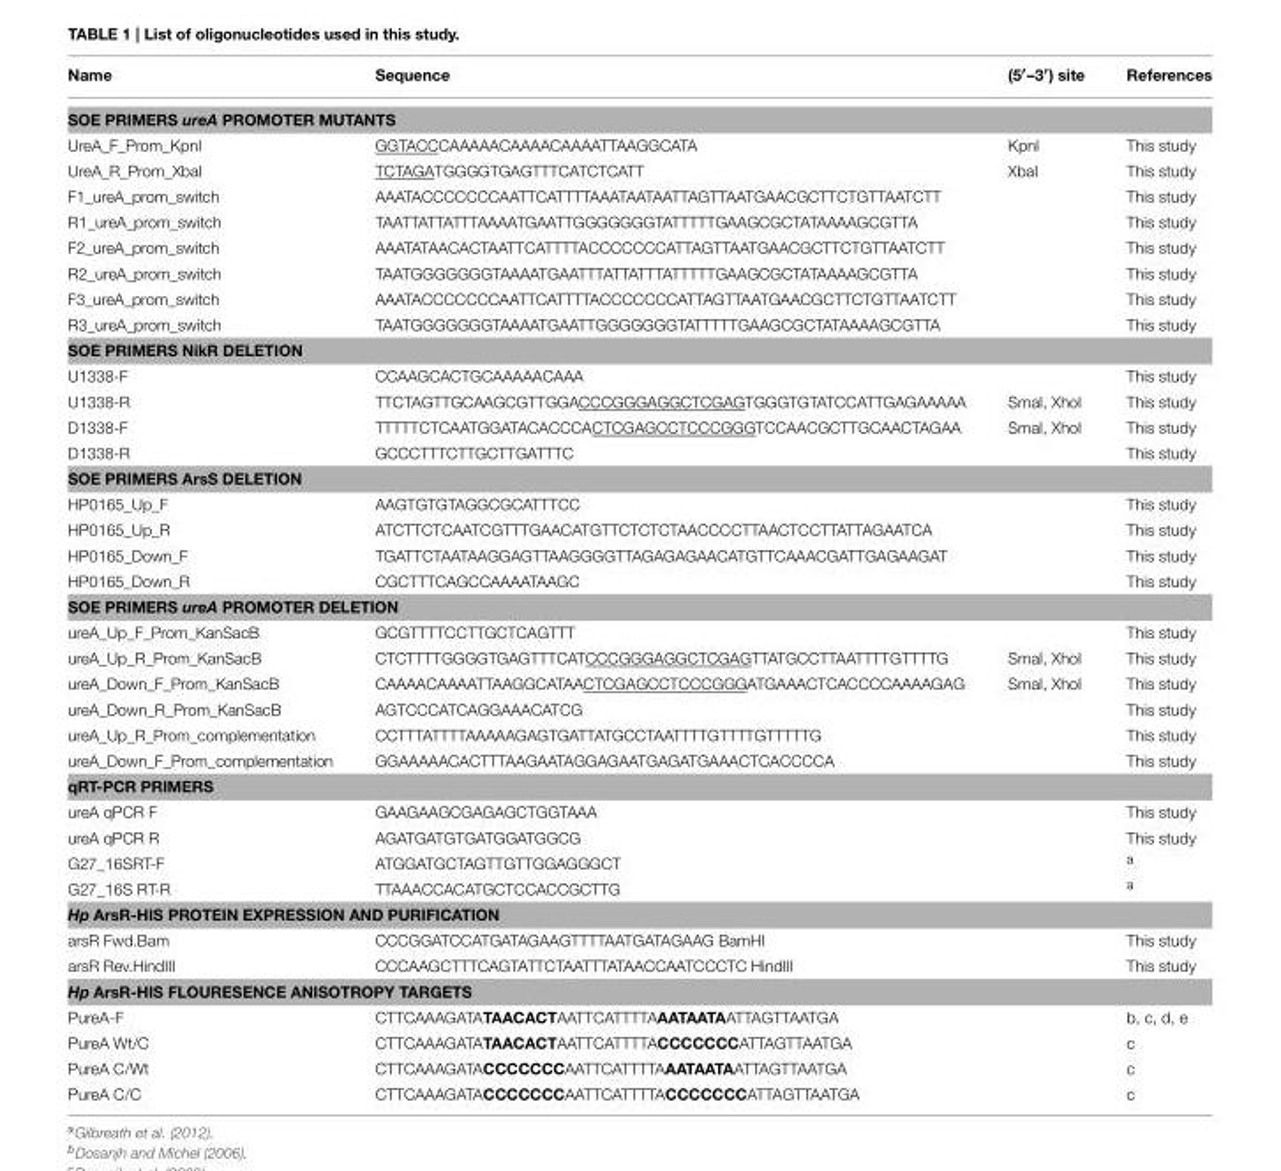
<table><thead><tr><td>Name</td><td>Sequence</td><td>(5′–3′) site</td><td>References</td></tr></thead><tbody><tr><td colspan="4">SOE PRIMERS ureA PROMOTER MUTANTS</td></tr><tr><td>UreA_F_Prom_KpnI</td><td>GGTACCCAAAAACAAAACAAAATTAAGGCATA</td><td>KpnI</td><td>This study</td></tr><tr><td>UreA_R_Prom_XbaI</td><td>TCTAGATGGGGTGAGTTTCATCTCATT</td><td>XbaI</td><td>This study</td></tr><tr><td>F1_ureA_prom_switch</td><td>AAATACCCCCCCAATTCATTTTAAATAATAATTAGTTAATGAACGCTTCTGTTAATCTT</td><td></td><td>This study</td></tr><tr><td>R1_ureA_prom_switch</td><td>TAATTATTATTTAAAATGAATTGGGGGGGTATTTTTGAAGCGCTATAAAAGCGTTA</td><td></td><td>This study</td></tr><tr><td>F2_ureA_prom_switch</td><td>AAATATAACACTAATTCATTTTACCCCCCCATTAGTTAATGAACGCTTCTGTTAATCTT</td><td></td><td>This study</td></tr><tr><td>R2_ureA_prom_switch</td><td>TAATGGGGGGGTAAAATGAATTTATTATTTATTTTTGAAGCGCTATAAAAGCGTTA</td><td></td><td>This study</td></tr><tr><td>F3_ureA_prom_switch</td><td>AAATACCCCCCCAATTCATTTTACCCCCCCATTAGTTAATGAACGCTTCTGTTAATCTT</td><td></td><td>This study</td></tr><tr><td>R3_ureA_prom_switch</td><td>TAATGGGGGGGTAAAATGAATTGGGGGGGTATTTTTGAAGCGCTATAAAAGCGTTA</td><td></td><td>This study</td></tr><tr><td colspan="4">SOE PRIMERS NikR DELETION</td></tr><tr><td>U1338-F</td><td>CCAAGCACTGCAAAAACAAA</td><td></td><td>This study</td></tr><tr><td>U1338-R</td><td>TTCTAGTTGCAAGCGTTGGACCCGGGAGGCTCGAGTGGGTGTATCCATTGAGAAAAA</td><td>SmaI, XhoI</td><td>This study</td></tr><tr><td>D1338-F</td><td>TTTTTCTCAATGGATACACCCACTCGAGCCTCCCGGGTCCAACGCTTGCAACTAGAA</td><td>SmaI, XhoI</td><td>This study</td></tr><tr><td>D1338-R</td><td>GCCCTTTCTTGCTTGATTTC</td><td></td><td>This study</td></tr><tr><td colspan="4">SOE PRIMERS ArsS DELETION</td></tr><tr><td>HP0165_Up_F</td><td>AAGTGTGTAGGCGCATTTCC</td><td></td><td>This study</td></tr><tr><td>HP0165_Up_R</td><td>ATCTTCTCAATCGTTTGAACATGTTCTCTCTAACCCCTTAACTCCTTATTAGAATCA</td><td></td><td>This study</td></tr><tr><td>HP0165_Down_F</td><td>TGATTCTAATAAGGAGTTAAGGGGTTAGAGAGAACATGTTCAAACGATTGAGAAGAT</td><td></td><td>This study</td></tr><tr><td>HP0165_Down_R</td><td>CGCTTTCAGCCAAAATAAGC</td><td></td><td>This study</td></tr><tr><td colspan="4">SOE PRIMERS ureA PROMOTER DELETION</td></tr><tr><td>ureA_Up_F_Prom_KanSacB</td><td>GCGTTTTCCTTGCTCAGTTT</td><td></td><td>This study</td></tr><tr><td>ureA_Up_R_Prom_KanSacB</td><td>CTCTTTTGGGGTGAGTTTCATCCCGGGAGGCTCGAGTTATGCCTTAATTTTGTTTTG</td><td>SmaI, XhoI</td><td>This study</td></tr><tr><td>ureA_Down_F_Prom_KanSacB</td><td>CAAAACAAAATTAAGGCATAACTCGAGCCTCCCGGGATGAAACTCACCCCAAAAGAG</td><td>SmaI, XhoI</td><td>This study</td></tr><tr><td>ureA_Down_R_Prom_KanSacB</td><td>AGTCCCATCAGGAAACATCG</td><td></td><td>This study</td></tr><tr><td>ureA_Up_R_Prom_complementation</td><td>CCTTTATTTTAAAAAGAGTGATTATGCCTAATTTTGTTTTGTTTTTG</td><td></td><td>This study</td></tr><tr><td>ureA_Down_F_Prom_complementation</td><td>GGAAAAACACTTTAAGAATAGGAGAATGAGATGAAACTCACCCCA</td><td></td><td>This study</td></tr><tr><td colspan="4">qRT-PCR PRIMERS</td></tr><tr><td>ureA qPCR F</td><td>GAAGAAGCGAGAGCTGGTAAA</td><td></td><td>This study</td></tr><tr><td>ureA qPCR R</td><td>AGATGATGTGATGGATGGCG</td><td></td><td>This study</td></tr><tr><td>G27_16SRT-F</td><td>ATGGATGCTAGTTGTTGGAGGGCT</td><td></td><td><sup>a</sup></td></tr><tr><td>G27_16S RT-R</td><td>TTAAACCACATGCTCCACCGCTTG</td><td></td><td><sup>a</sup></td></tr><tr><td colspan="4">Hp ArsR-HIS PROTEIN EXPRESSION AND PURIFICATION</td></tr><tr><td>arsR Fwd.Bam</td><td>CCCGGATCCATGATAGAAGTTTTAATGATAGAAG BamHI</td><td></td><td>This study</td></tr><tr><td>arsR Rev.HindIII</td><td>CCCAAGCTTTCAGTATTCTAATTTATAACCAATCCCTC HindIII</td><td></td><td>This study</td></tr><tr><td colspan="4">Hp ArsR-HIS FLOURESENCE ANISOTROPY TARGETS</td></tr><tr><td>PureA-F</td><td>CTTCAAAGATATAACACTAATTCATTTTAAATAATAATTAGTTAATGA</td><td></td><td>b, c, d, e</td></tr><tr><td>PureA Wt/C</td><td>CTTCAAAGATATAACACTAATTCATTTTACCCCCCCATTAGTTAATGA</td><td></td><td>c</td></tr><tr><td>PureA C/Wt</td><td>CTTCAAAGATACCCCCCCAATTCATTTTAAATAATAATTAGTTAATGA</td><td></td><td>c</td></tr><tr><td>PureA C/C</td><td>CTTCAAAGATACCCCCCCAATTCATTTTACCCCCCCATTAGTTAATGA</td><td></td><td>c</td></tr></tbody></table>